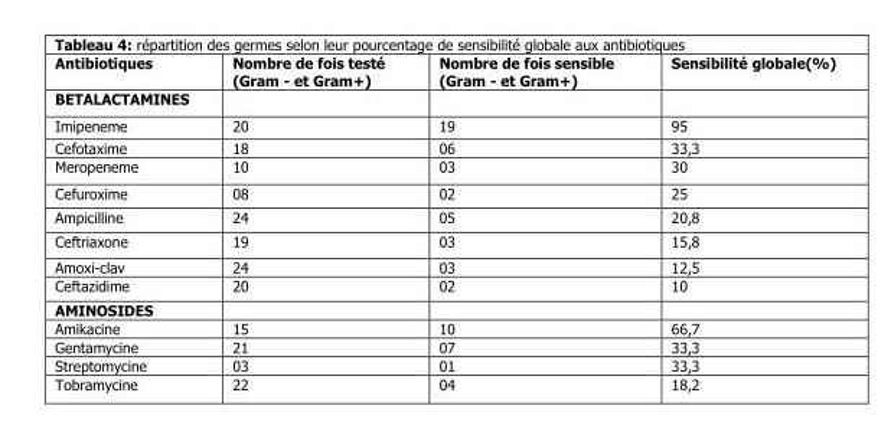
<table><thead><tr><td>Antibiotiques</td><td>Nombre de fois testé (Gram - et Gram+)</td><td>Nombre de fois sensible (Gram - et Gram+)</td><td>Sensibilité globale(%)</td></tr></thead><tbody><tr><td colspan="4">BETALACTAMINES</td></tr><tr><td>Imipeneme</td><td>20</td><td>19</td><td>95</td></tr><tr><td>Cefotaxime</td><td>18</td><td>06</td><td>33,3</td></tr><tr><td>Meropeneme</td><td>10</td><td>03</td><td>30</td></tr><tr><td>Cefuroxime</td><td>08</td><td>02</td><td>25</td></tr><tr><td>Ampicilline</td><td>24</td><td>05</td><td>20,8</td></tr><tr><td>Ceftriaxone</td><td>19</td><td>03</td><td>15,8</td></tr><tr><td>Amoxi-clav</td><td>24</td><td>03</td><td>12,5</td></tr><tr><td>Ceftazidime</td><td>20</td><td>02</td><td>10</td></tr><tr><td colspan="4">AMINOSIDES</td></tr><tr><td>Amikacine</td><td>15</td><td>10</td><td>66,7</td></tr><tr><td>Gentamycine</td><td>21</td><td>07</td><td>33,3</td></tr><tr><td>Streptomycine</td><td>03</td><td>01</td><td>33,3</td></tr><tr><td>Tobramycine</td><td>22</td><td>04</td><td>18,2</td></tr></tbody></table>